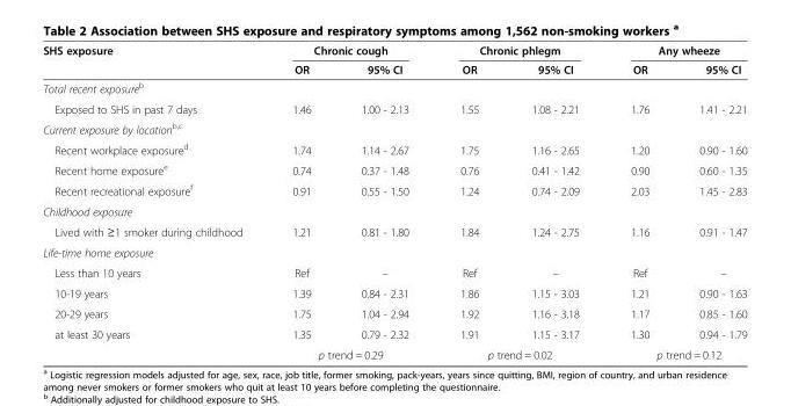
<table><thead><tr><td rowspan="2">SHS exposure</td><td colspan="2">Chronic cough</td><td colspan="2">Chronic phlegm</td><td colspan="2">Any wheeze</td></tr><tr><td>OR</td><td>95% CI</td><td>OR</td><td>95% CI</td><td>OR</td><td>95% CI</td></tr></thead><tbody><tr><td colspan="7">Total recent exposure<sup>b</sup></td></tr><tr><td>Exposed to SHS in past 7 days</td><td>1.46</td><td>1.00 - 2.13</td><td>1.55</td><td>1.08 - 2.21</td><td>1.76</td><td>1.41 - 2.21</td></tr><tr><td colspan="7">Current exposure by location<sup>b,c</sup></td></tr><tr><td>Recent workplace exposure<sup>d</sup></td><td>1.74</td><td>1.14 - 2.67</td><td>1.75</td><td>1.16 - 2.65</td><td>1.20</td><td>0.90 - 1.60</td></tr><tr><td>Recent home exposure<sup>e</sup></td><td>0.74</td><td>0.37 - 1.48</td><td>0.76</td><td>0.41 - 1.42</td><td>0.90</td><td>0.60 - 1.35</td></tr><tr><td>Recent recreational exposure<sup>f</sup></td><td>0.91</td><td>0.55 - 1.50</td><td>1.24</td><td>0.74 - 2.09</td><td>2.03</td><td>1.45 - 2.83</td></tr><tr><td colspan="7">Childhood exposure</td></tr><tr><td>Lived with ≥1 smoker during childhood</td><td>1.21</td><td>0.81 - 1.80</td><td>1.84</td><td>1.24 - 2.75</td><td>1.16</td><td>0.91 - 1.47</td></tr><tr><td colspan="7">Life-time home exposure</td></tr><tr><td>Less than 10 years</td><td>Ref</td><td>–</td><td>Ref</td><td>–</td><td>Ref</td><td>–</td></tr><tr><td>10-19 years</td><td>1.39</td><td>0.84 - 2.31</td><td>1.86</td><td>1.15 - 3.03</td><td>1.21</td><td>0.90 - 1.63</td></tr><tr><td>20-29 years</td><td>1.75</td><td>1.04 - 2.94</td><td>1.92</td><td>1.16 - 3.18</td><td>1.17</td><td>0.85 - 1.60</td></tr><tr><td rowspan="2">at least 30 years</td><td>1.35</td><td>0.79 - 2.32</td><td>1.91</td><td>1.15 - 3.17</td><td>1.30</td><td>0.94 - 1.79</td></tr><tr><td colspan="2">p trend = 0.29</td><td colspan="2">p trend = 0.02</td><td colspan="2">p trend = 0.12</td></tr></tbody></table>